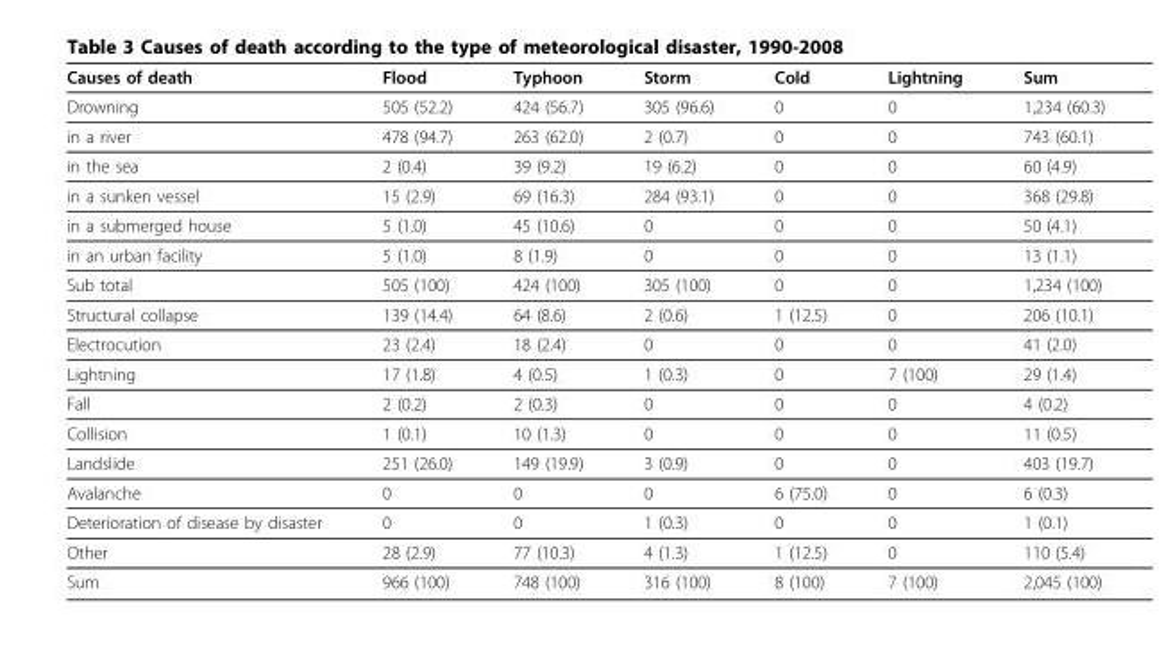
<table><thead><tr><td>Causes of death</td><td>Flood</td><td>Typhoon</td><td>Storm</td><td>Cold</td><td>Lightning</td><td>Sum</td></tr></thead><tbody><tr><td>Drowning</td><td>505 (52.2)</td><td>424 (56.7)</td><td>305 (96.6)</td><td>0</td><td>0</td><td>1,234 (60.3)</td></tr><tr><td>in a river</td><td>478 (94.7)</td><td>263 (62.0)</td><td>2 (0.7)</td><td>0</td><td>0</td><td>743 (60.1)</td></tr><tr><td>in the sea</td><td>2 (0.4)</td><td>39 (9.2)</td><td>19 (6.2)</td><td>0</td><td>0</td><td>60 (4.9)</td></tr><tr><td>in a sunken vessel</td><td>15 (2.9)</td><td>69 (16.3)</td><td>284 (93.1)</td><td>0</td><td>0</td><td>368 (29.8)</td></tr><tr><td>in a submerged house</td><td>5 (1.0)</td><td>45 (10.6)</td><td>0</td><td>0</td><td>0</td><td>50 (4.1)</td></tr><tr><td>in an urban facility</td><td>5 (1.0)</td><td>8 (1.9)</td><td>0</td><td>0</td><td>0</td><td>13 (1.1)</td></tr><tr><td>Sub total</td><td>505 (100)</td><td>424 (100)</td><td>305 (100)</td><td>0</td><td>0</td><td>1,234 (100)</td></tr><tr><td>Structural collapse</td><td>139 (14.4)</td><td>64 (8.6)</td><td>2 (0.6)</td><td>1 (12.5)</td><td>0</td><td>206 (10.1)</td></tr><tr><td>Electrocution</td><td>23 (2.4)</td><td>18 (2.4)</td><td>0</td><td>0</td><td>0</td><td>41 (2.0)</td></tr><tr><td>Lightning</td><td>17 (1.8)</td><td>4 (0.5)</td><td>1 (0.3)</td><td>0</td><td>7 (100)</td><td>29 (1.4)</td></tr><tr><td>Fall</td><td>2 (0.2)</td><td>2 (0.3)</td><td>0</td><td>0</td><td>0</td><td>4 (0.2)</td></tr><tr><td>Collision</td><td>1 (0.1)</td><td>10 (1.3)</td><td>0</td><td>0</td><td>0</td><td>11 (0.5)</td></tr><tr><td>Landslide</td><td>251 (26.0)</td><td>149 (19.9)</td><td>3 (0.9)</td><td>0</td><td>0</td><td>403 (19.7)</td></tr><tr><td>Avalanche</td><td>0</td><td>0</td><td>0</td><td>6 (75.0)</td><td>0</td><td>6 (0.3)</td></tr><tr><td>Deterioration of disease by disaster</td><td>0</td><td>0</td><td>1 (0.3)</td><td>0</td><td>0</td><td>1 (0.1)</td></tr><tr><td>Other</td><td>28 (2.9)</td><td>77 (10.3)</td><td>4 (1.3)</td><td>1 (12.5)</td><td>0</td><td>110 (5.4)</td></tr><tr><td>Sum</td><td>966 (100)</td><td>748 (100)</td><td>316 (100)</td><td>8 (100)</td><td>7 (100)</td><td>2,045 (100)</td></tr></tbody></table>